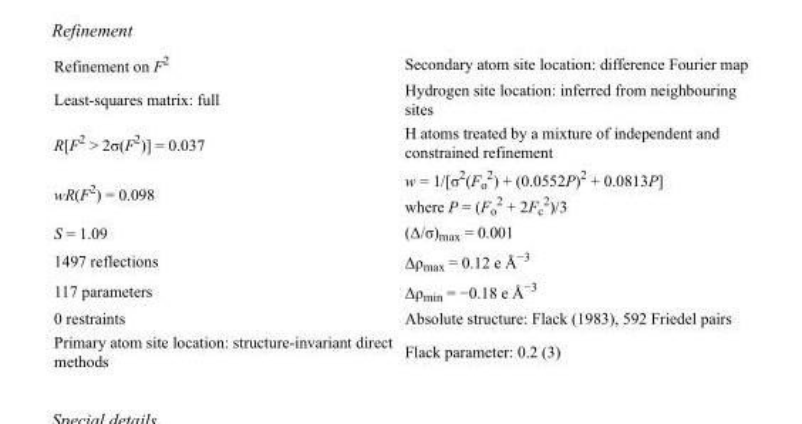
<table><tbody><tr><td>Refinement on F<sup>2</sup></td><td>Secondary atom site location: difference Fourier map</td></tr><tr><td>Least-squares matrix: full</td><td>Hydrogen site location: inferred from neighbouring sites</td></tr><tr><td>R[F<sup>2</sup> &gt; 2σ(F<sup>2</sup>)] = 0.037</td><td>H atoms treated by a mixture of independent and constrained refinement</td></tr><tr><td>wR(F<sup>2</sup>) = 0.098</td><td>w = 1/[σ<sup>2</sup>(F<sub>o</sub> <sup>2</sup>) + (0.0552P)<sup>2</sup> + 0.0813P] where P = (F<sub>o</sub> <sup>2</sup> + 2F<sub>c</sub> <sup>2</sup>)/3</td></tr><tr><td>S = 1.09</td><td>(Δ/σ)<sub>max</sub> = 0.001</td></tr><tr><td>1497 reflections</td><td>Δρ<sub>max</sub> = 0.12 e Å<sup>−3</sup></td></tr><tr><td>117 parameters</td><td>Δρ<sub>min</sub> = −0.18 e Å<sup>−3</sup></td></tr><tr><td>0 restraints</td><td>Absolute structure: Flack (1983), 592 Friedel pairs</td></tr><tr><td>Primary atom site location: structure-invariant direct methods</td><td>Flack parameter: 0.2 (3)</td></tr></tbody></table>